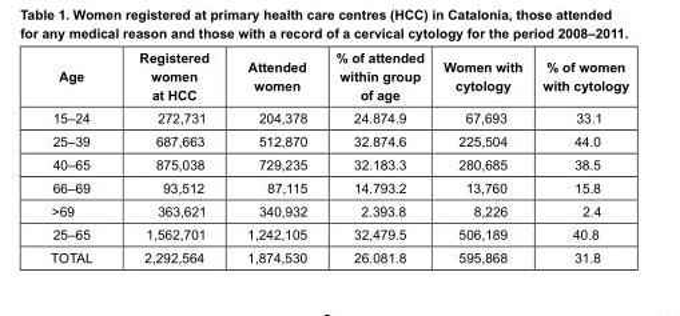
<table><thead><tr><td>Age</td><td>Registered women at HCC</td><td>Attended women</td><td>% of attended within group of age</td><td>Women with cytology</td><td>% of women with cytology</td></tr></thead><tbody><tr><td>15–24</td><td>272,731</td><td>204,378</td><td>24.874.9</td><td>67,693</td><td>33.1</td></tr><tr><td>25–39</td><td>687,663</td><td>512,870</td><td>32.874.6</td><td>225,504</td><td>44.0</td></tr><tr><td>40–65</td><td>875,038</td><td>729,235</td><td>32.183.3</td><td>280,685</td><td>38.5</td></tr><tr><td>66–69</td><td>93,512</td><td>87,115</td><td>14.793.2</td><td>13,760</td><td>15.8</td></tr><tr><td>&gt;69</td><td>363,621</td><td>340,932</td><td>2.393.8</td><td>8,226</td><td>2.4</td></tr><tr><td>25–65</td><td>1,562,701</td><td>1,242,105</td><td>32,479.5</td><td>506,189</td><td>40.8</td></tr><tr><td>TOTAL</td><td>2,292,564</td><td>1,874,530</td><td>26.081.8</td><td>595,868</td><td>31.8</td></tr></tbody></table>